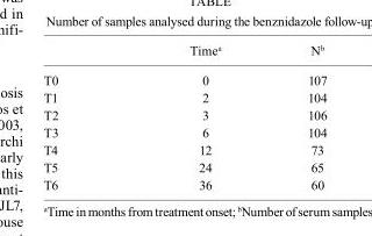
<table><thead><tr><td></td><td>Time<sup>a</sup></td><td>N<sup>b</sup></td></tr></thead><tbody><tr><td>T0</td><td>0</td><td>107</td></tr><tr><td>T1</td><td>2</td><td>104</td></tr><tr><td>T2</td><td>3</td><td>106</td></tr><tr><td>T3</td><td>6</td><td>104</td></tr><tr><td>T4</td><td>12</td><td>73</td></tr><tr><td>T5</td><td>24</td><td>65</td></tr><tr><td>T6</td><td>36</td><td>60</td></tr></tbody></table>